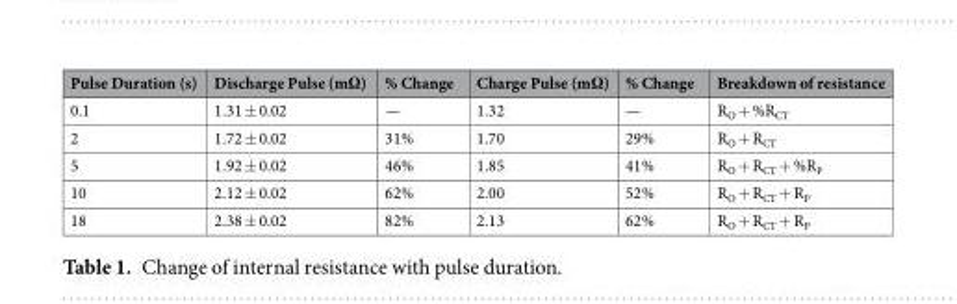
<table><thead><tr><td>Pulse Duration (s)</td><td>Discharge Pulse (mΩ)</td><td>% Change</td><td>Charge Pulse (mΩ)</td><td>% Change</td><td>Breakdown of resistance</td></tr></thead><tbody><tr><td>0.1</td><td>1.31 ± 0.02</td><td>—</td><td>1.32</td><td>—</td><td>R<sub>O</sub> + %R<sub>CT</sub></td></tr><tr><td>2</td><td>1.72 ± 0.02</td><td>31%</td><td>1.70</td><td>29%</td><td>R<sub>O</sub> + R<sub>CT</sub></td></tr><tr><td>5</td><td>1.92 ± 0.02</td><td>46%</td><td>1.85</td><td>41%</td><td>R<sub>O</sub> + R<sub>CT</sub> + %R<sub>P</sub></td></tr><tr><td>10</td><td>2.12 ± 0.02</td><td>62%</td><td>2.00</td><td>52%</td><td>R<sub>O</sub> + R<sub>CT</sub> + R<sub>P</sub></td></tr><tr><td>18</td><td>2.38 ± 0.02</td><td>82%</td><td>2.13</td><td>62%</td><td>R<sub>O</sub> + R<sub>CT</sub> + R<sub>P</sub></td></tr></tbody></table>